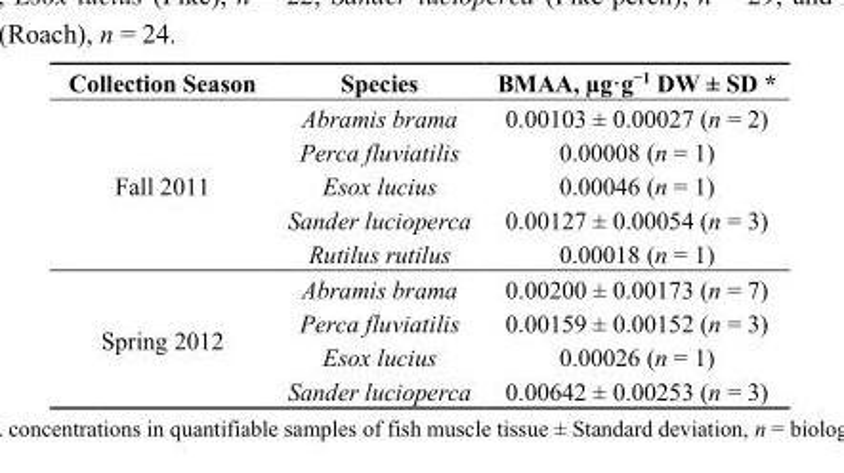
<table><thead><tr><td>Collection Season</td><td>Species</td><td>BMAA, µg·g<sup>−1</sup> DW ± SD *</td></tr></thead><tbody><tr><td rowspan="5">Fall 2011</td><td>Abramis brama</td><td>0.00103 ± 0.00027 (n = 2)</td></tr><tr><td>Perca fluviatilis</td><td>0.00008 (n = 1)</td></tr><tr><td>Esox lucius</td><td>0.00046 (n = 1)</td></tr><tr><td>Sander lucioperca</td><td>0.00127 ± 0.00054 (n = 3)</td></tr><tr><td>Rutilus rutilus</td><td>0.00018 (n = 1)</td></tr><tr><td rowspan="4">Spring 2012</td><td>Abramis brama</td><td>0.00200 ± 0.00173 (n = 7)</td></tr><tr><td>Perca fluviatilis</td><td>0.00159 ± 0.00152 (n = 3)</td></tr><tr><td>Esox lucius</td><td>0.00026 (n = 1)</td></tr><tr><td>Sander lucioperca</td><td>0.00642 ± 0.00253 (n = 3)</td></tr></tbody></table>